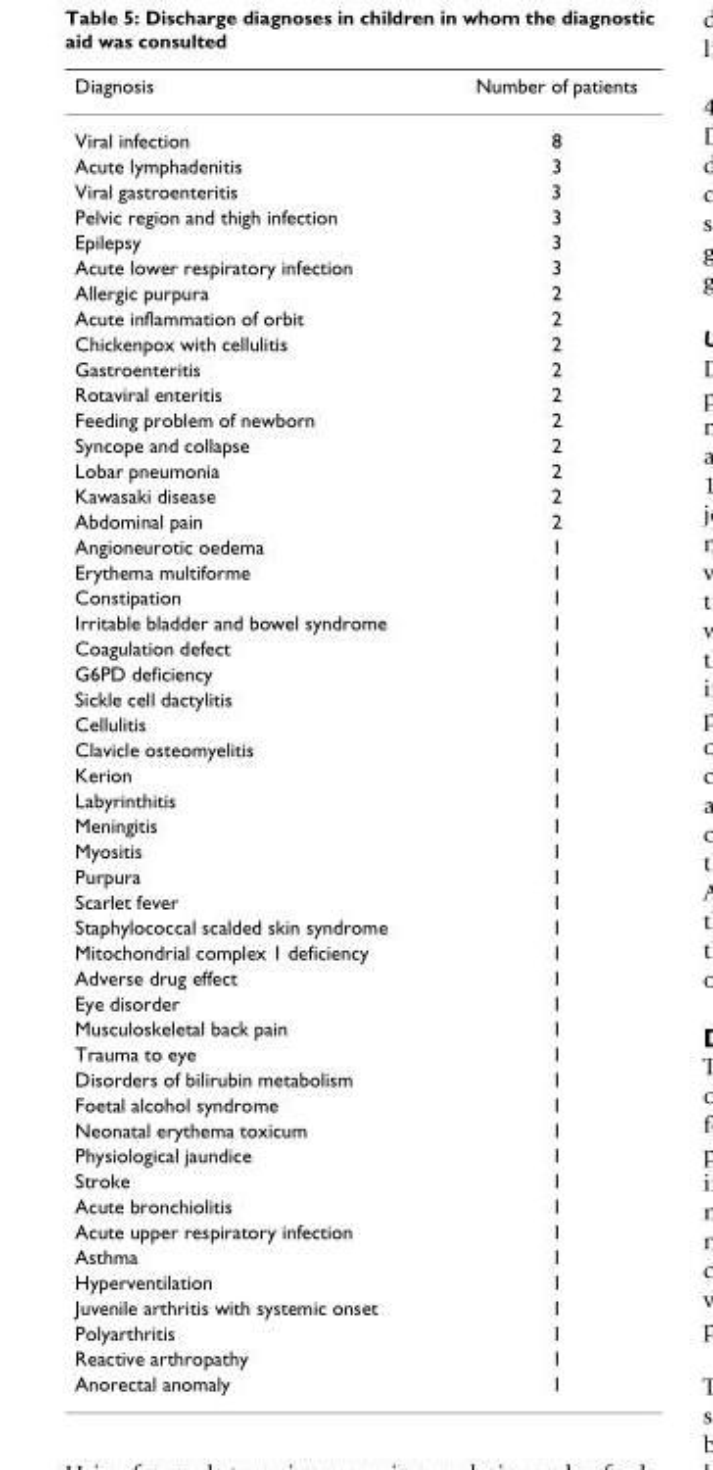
<table><thead><tr><td>Diagnosis</td><td>Number of patients</td></tr></thead><tbody><tr><td>Viral infection</td><td>8</td></tr><tr><td>Acute lymphadenitis</td><td>3</td></tr><tr><td>Viral gastroenteritis</td><td>3</td></tr><tr><td>Pelvic region and thigh infection</td><td>3</td></tr><tr><td>Epilepsy</td><td>3</td></tr><tr><td>Acute lower respiratory infection</td><td>3</td></tr><tr><td>Allergic purpura</td><td>2</td></tr><tr><td>Acute inflammation of orbit</td><td>2</td></tr><tr><td>Chickenpox with cellulitis</td><td>2</td></tr><tr><td>Gastroenteritis</td><td>2</td></tr><tr><td>Rotaviral enteritis</td><td>2</td></tr><tr><td>Feeding problem of newborn</td><td>2</td></tr><tr><td>Syncope and collapse</td><td>2</td></tr><tr><td>Lobar pneumonia</td><td>2</td></tr><tr><td>Kawasaki disease</td><td>2</td></tr><tr><td>Abdominal pain</td><td>2</td></tr><tr><td>Angioneurotic oedema</td><td>1</td></tr><tr><td>Erythema multiforme</td><td>1</td></tr><tr><td>Constipation</td><td>1</td></tr><tr><td>Irritable bladder and bowel syndrome</td><td>1</td></tr><tr><td>Coagulation defect</td><td>1</td></tr><tr><td>G6PD deficiency</td><td>1</td></tr><tr><td>Sickle cell dactylitis</td><td>1</td></tr><tr><td>Cellulitis</td><td>1</td></tr><tr><td>Clavicle osteomyelitis</td><td>1</td></tr><tr><td>Kerion</td><td>1</td></tr><tr><td>Labyrinthitis</td><td>1</td></tr><tr><td>Meningitis</td><td>1</td></tr><tr><td>Myositis</td><td>1</td></tr><tr><td>Purpura</td><td>1</td></tr><tr><td>Scarlet fever</td><td>1</td></tr><tr><td>Staphylococcal scalded skin syndrome</td><td>1</td></tr><tr><td>Mitochondrial complex 1 deficiency</td><td>1</td></tr><tr><td>Adverse drug effect</td><td>1</td></tr><tr><td>Eye disorder</td><td>1</td></tr><tr><td>Musculoskeletal back pain</td><td>1</td></tr><tr><td>Trauma to eye</td><td>1</td></tr><tr><td>Disorders of bilirubin metabolism</td><td>1</td></tr><tr><td>Foetal alcohol syndrome</td><td>1</td></tr><tr><td>Neonatal erythema toxicum</td><td>1</td></tr><tr><td>Physiological jaundice</td><td>1</td></tr><tr><td>Stroke</td><td>1</td></tr><tr><td>Acute bronchiolitis</td><td>1</td></tr><tr><td>Acute upper respiratory infection</td><td>1</td></tr><tr><td>Asthma</td><td>1</td></tr><tr><td>Hyperventilation</td><td>1</td></tr><tr><td>Juvenile arthritis with systemic onset</td><td>1</td></tr><tr><td>Polyarthritis</td><td>1</td></tr><tr><td>Reactive arthropathy</td><td>1</td></tr><tr><td>Anorectal anomaly</td><td>1</td></tr></tbody></table>